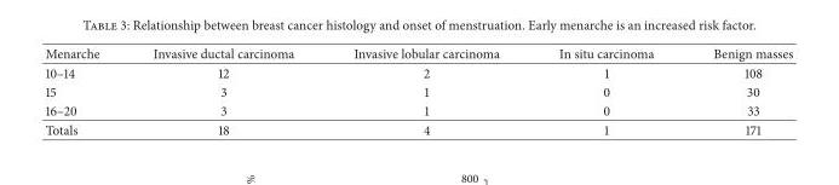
<table><thead><tr><td>Menarche</td><td>Invasive ductal carcinoma</td><td>Invasive lobular carcinoma</td><td>In situ carcinoma</td><td>Benign masses</td></tr></thead><tbody><tr><td>10–14</td><td>12</td><td>2</td><td>1</td><td>108</td></tr><tr><td>15</td><td>3</td><td>1</td><td>0</td><td>30</td></tr><tr><td>16–20</td><td>3</td><td>1</td><td>0</td><td>33</td></tr><tr><td>Totals</td><td>18</td><td>4</td><td>1</td><td>171</td></tr></tbody></table>